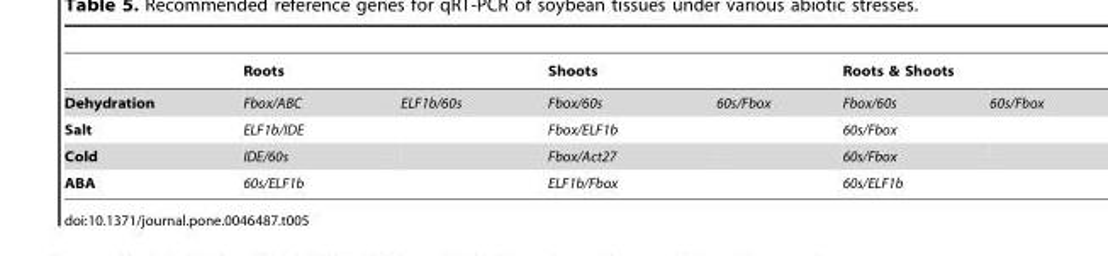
<table><thead><tr><td rowspan="2">Dehydration</td><td colspan="2">Roots</td><td colspan="2">Shoots</td><td colspan="2">Roots &amp; Shoots</td></tr><tr><td>Fbox/ABC</td><td>ELF1b/60s</td><td>Fbox/60s</td><td>60s/Fbox</td><td>Fbox/60s</td><td>60s/Fbox</td></tr></thead><tbody><tr><td>Salt</td><td>ELF1b/IDE</td><td></td><td>Fbox/ELF1b</td><td></td><td>60s/Fbox</td><td></td></tr><tr><td>Cold</td><td>IDE/60s</td><td></td><td>Fbox/Act27</td><td></td><td>60s/Fbox</td><td></td></tr><tr><td>ABA</td><td>60s/ELF1b</td><td></td><td>ELF1b/Fbox</td><td></td><td>60s/ELF1b</td><td></td></tr></tbody></table>